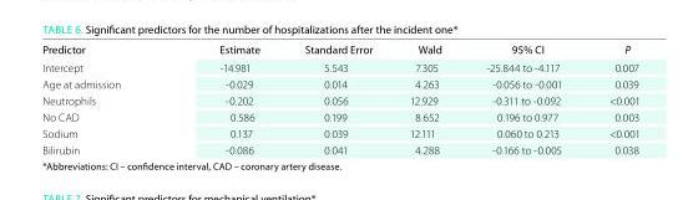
<table><thead><tr><td>Predictor</td><td>Estimate</td><td>Standard Error</td><td>Wald</td><td>95% CI</td><td>P</td></tr></thead><tbody><tr><td>Intercept</td><td>-14.981</td><td>5.543</td><td>7.305</td><td>-25.844 to -4.117</td><td>0.007</td></tr><tr><td>Age at admission</td><td>-0.029</td><td>0.014</td><td>4.263</td><td>-0.056 to -0.001</td><td>0.039</td></tr><tr><td>Neutrophils</td><td>-0.202</td><td>0.056</td><td>12.929</td><td>-0.311 to -0.092</td><td>&lt;0.001</td></tr><tr><td>No CAD</td><td>0.586</td><td>0.199</td><td>8.652</td><td>0.196 to 0.977</td><td>0.003</td></tr><tr><td>Sodium</td><td>0.137</td><td>0.039</td><td>12.111</td><td>0.060 to 0.213</td><td>&lt;0.001</td></tr><tr><td>Bilirubin</td><td>-0.086</td><td>0.041</td><td>4.288</td><td>-0.166 to -0.005</td><td>0.038</td></tr></tbody></table>